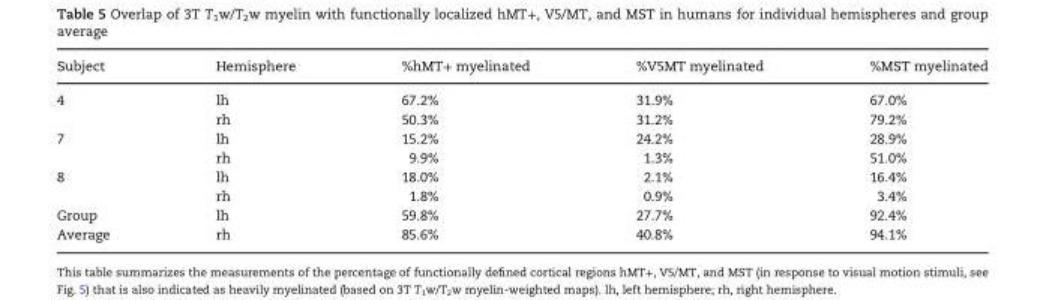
<table><thead><tr><td>Subject</td><td>Hemisphere</td><td>%hMT+ myelinated</td><td>%V5MT myelinated</td><td>%MST myelinated</td></tr></thead><tbody><tr><td rowspan="2">4</td><td>lh</td><td>67.2%</td><td>31.9%</td><td>67.0%</td></tr><tr><td>rh</td><td>50.3%</td><td>31.2%</td><td>79.2%</td></tr><tr><td rowspan="2">7</td><td>lh</td><td>15.2%</td><td>24.2%</td><td>28.9%</td></tr><tr><td>rh</td><td>9.9%</td><td>1.3%</td><td>51.0%</td></tr><tr><td rowspan="2">8</td><td>lh</td><td>18.0%</td><td>2.1%</td><td>16.4%</td></tr><tr><td>rh</td><td>1.8%</td><td>0.9%</td><td>3.4%</td></tr><tr><td>Group</td><td>lh</td><td>59.8%</td><td>27.7%</td><td>92.4%</td></tr><tr><td>Average</td><td>rh</td><td>85.6%</td><td>40.8%</td><td>94.1%</td></tr></tbody></table>